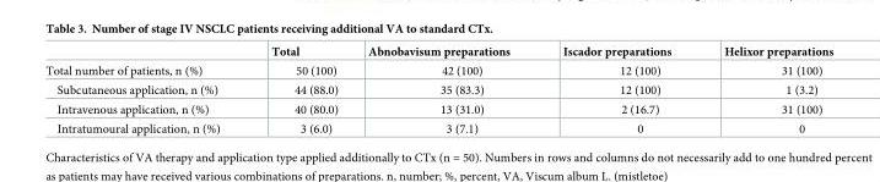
<table><thead><tr><td></td><td>Total</td><td>Abnobavisum preparations</td><td>Iscador preparations</td><td>Helixor preparations</td></tr></thead><tbody><tr><td>Total number of patients, n (%)</td><td>50 (100)</td><td>42 (100)</td><td>12 (100)</td><td>31 (100)</td></tr><tr><td>Subcutaneous application, n (%)</td><td>44 (88.0)</td><td>35 (83.3)</td><td>12 (100)</td><td>1 (3.2)</td></tr><tr><td>Intravenous application, n (%)</td><td>40 (80.0)</td><td>13 (31.0)</td><td>2 (16.7)</td><td>31 (100)</td></tr><tr><td>Intratumoural application, n (%)</td><td>3 (6.0)</td><td>3 (7.1)</td><td>0</td><td>0</td></tr></tbody></table>